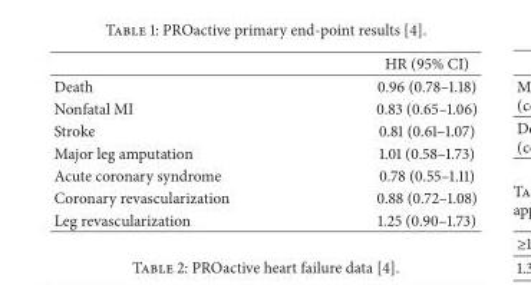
<table><thead><tr><td></td><td>HR (95% CI)</td></tr></thead><tbody><tr><td>Death</td><td>0.96 (0.78–1.18)</td></tr><tr><td>Nonfatal MI</td><td>0.83 (0.65–1.06)</td></tr><tr><td>Stroke</td><td>0.81 (0.61–1.07)</td></tr><tr><td>Major leg amputation</td><td>1.01 (0.58–1.73)</td></tr><tr><td>Acute coronary syndrome</td><td>0.78 (0.55–1.11)</td></tr><tr><td>Coronary revascularization</td><td>0.88 (0.72–1.08)</td></tr><tr><td>Leg revascularization</td><td>1.25 (0.90–1.73)</td></tr></tbody></table>